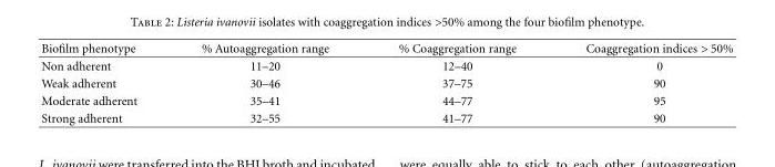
<table><thead><tr><td>Biofilm phenotype</td><td>% Autoaggregation range</td><td>% Coaggregation range</td><td>Coaggregation indices &gt; 50%</td></tr></thead><tbody><tr><td>Non adherent</td><td>11–20</td><td>12–40</td><td>0</td></tr><tr><td>Weak adherent</td><td>30–46</td><td>37–75</td><td>90</td></tr><tr><td>Moderate adherent</td><td>35–41</td><td>44–77</td><td>95</td></tr><tr><td>Strong adherent</td><td>32–55</td><td>41–77</td><td>90</td></tr></tbody></table>